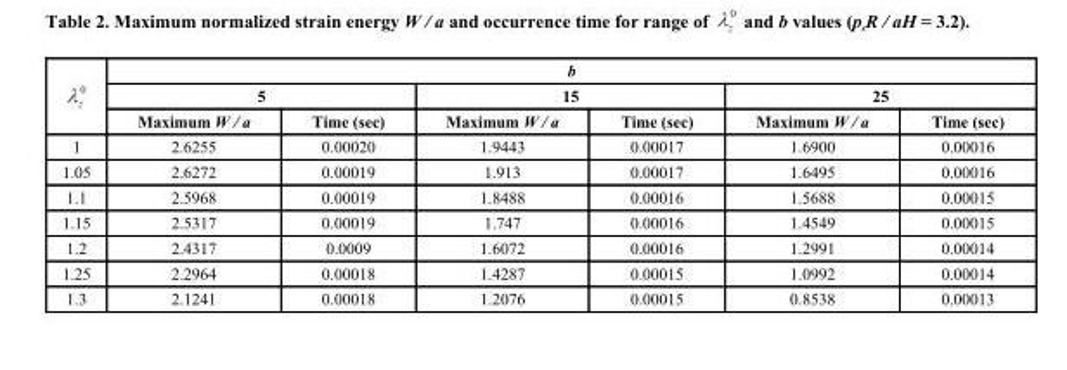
<table><thead><tr><td rowspan="3">λ <sub>z</sub><sup>0</sup></td><td colspan="6">b</td></tr><tr><td colspan="2">5</td><td colspan="2">15</td><td colspan="2">25</td></tr><tr><td>Maximum W / a</td><td>Time (sec)</td><td>Maximum W / a</td><td>Time (sec)</td><td>Maximum W / a</td><td>Time (sec)</td></tr></thead><tbody><tr><td>1</td><td>2.6255</td><td>0.00020</td><td>1.9443</td><td>0.00017</td><td>1.6900</td><td>0.00016</td></tr><tr><td>1.05</td><td>2.6272</td><td>0.00019</td><td>1.913</td><td>0.00017</td><td>1.6495</td><td>0.00016</td></tr><tr><td>1.1</td><td>2.5968</td><td>0.00019</td><td>1.8488</td><td>0.00016</td><td>1.5688</td><td>0.00015</td></tr><tr><td>1.15</td><td>2.5317</td><td>0.00019</td><td>1.747</td><td>0.00016</td><td>1.4549</td><td>0.00015</td></tr><tr><td>1.2</td><td>2.4317</td><td>0.0009</td><td>1.6072</td><td>0.00016</td><td>1.2991</td><td>0.00014</td></tr><tr><td>1.25</td><td>2.2964</td><td>0.00018</td><td>1.4287</td><td>0.00015</td><td>1.0992</td><td>0.00014</td></tr><tr><td>1.3</td><td>2.1241</td><td>0.00018</td><td>1.2076</td><td>0.00015</td><td>0.8538</td><td>0.00013</td></tr></tbody></table>